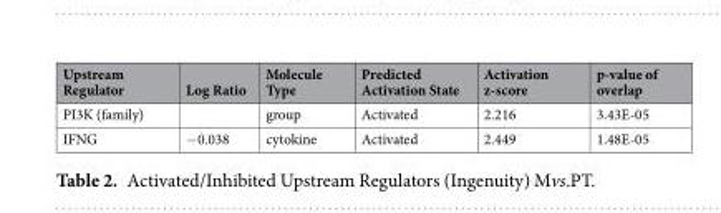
<table><thead><tr><td>Upstream Regulator</td><td>Log Ratio</td><td>Molecule Type</td><td>Predicted Activation State</td><td>Activation z-score</td><td>p-value of overlap</td></tr></thead><tbody><tr><td>PI3K (family)</td><td></td><td>group</td><td>Activated</td><td>2.216</td><td>3.43E-05</td></tr><tr><td>IFNG</td><td>−0.038</td><td>cytokine</td><td>Activated</td><td>2.449</td><td>1.48E-05</td></tr></tbody></table>